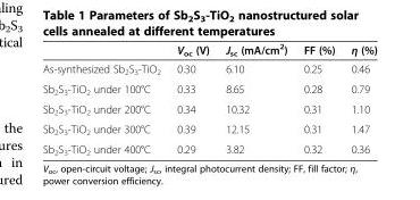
<table><thead><tr><td></td><td>V<sub>oc</sub> (V)</td><td>J<sub>sc</sub> (mA/cm<sup>2</sup>)</td><td>FF (%)</td><td>η (%)</td></tr></thead><tbody><tr><td>As-synthesized Sb<sub>2</sub>S<sub>3</sub>-TiO<sub>2</sub></td><td>0.30</td><td>6.10</td><td>0.25</td><td>0.46</td></tr><tr><td>Sb<sub>2</sub>S<sub>3</sub>-TiO<sub>2</sub> under 100°C</td><td>0.33</td><td>8.65</td><td>0.28</td><td>0.79</td></tr><tr><td>Sb<sub>2</sub>S<sub>3</sub>-TiO<sub>2</sub> under 200°C</td><td>0.34</td><td>10.32</td><td>0.31</td><td>1.10</td></tr><tr><td>Sb<sub>2</sub>S<sub>3</sub>-TiO<sub>2</sub> under 300°C</td><td>0.39</td><td>12.15</td><td>0.31</td><td>1.47</td></tr><tr><td>Sb<sub>2</sub>S<sub>3</sub>-TiO<sub>2</sub> under 400°C</td><td>0.29</td><td>3.82</td><td>0.32</td><td>0.36</td></tr></tbody></table>